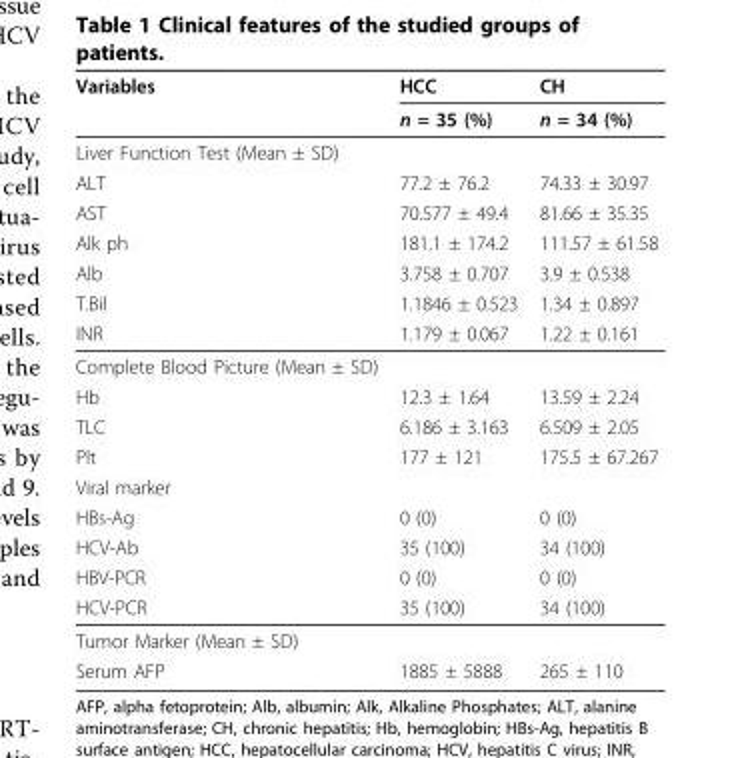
<table><thead><tr><td rowspan="2">Variables</td><td rowspan="2">HCC n = 35 (%)</td><td rowspan="2">CH n = 34 (%)</td></tr><tr></tr></thead><tbody><tr><td colspan="3">Liver Function Test (Mean ± SD)</td></tr><tr><td>ALT</td><td>77.2 ± 76.2</td><td>74.33 ± 30.97</td></tr><tr><td>AST</td><td>70.577 ± 49.4</td><td>81.66 ± 35.35</td></tr><tr><td>Alk ph</td><td>181.1 ± 174.2</td><td>111.57 ± 61.58</td></tr><tr><td>Alb</td><td>3.758 ± 0.707</td><td>3.9 ± 0.538</td></tr><tr><td>T.Bil</td><td>1.1846 ± 0.523</td><td>1.34 ± 0.897</td></tr><tr><td>INR</td><td>1.179 ± 0.067</td><td>1.22 ± 0.161</td></tr><tr><td colspan="3">Complete Blood Picture (Mean ± SD)</td></tr><tr><td>Hb</td><td>12.3 ± 1.64</td><td>13.59 ± 2.24</td></tr><tr><td>TLC</td><td>6.186 ± 3.163</td><td>6.509 ± 2.05</td></tr><tr><td>Plt</td><td>177 ± 121</td><td>175.5 ± 67.267</td></tr><tr><td colspan="3">Viral marker</td></tr><tr><td>HBs-Ag</td><td>0 (0)</td><td>0 (0)</td></tr><tr><td>HCV-Ab</td><td>35 (100)</td><td>34 (100)</td></tr><tr><td>HBV-PCR</td><td>0 (0)</td><td>0 (0)</td></tr><tr><td>HCV-PCR</td><td>35 (100)</td><td>34 (100)</td></tr><tr><td colspan="3">Tumor Marker (Mean ± SD)</td></tr><tr><td>Serum AFP</td><td>1885 ± 5888</td><td>265 ± 110</td></tr></tbody></table>